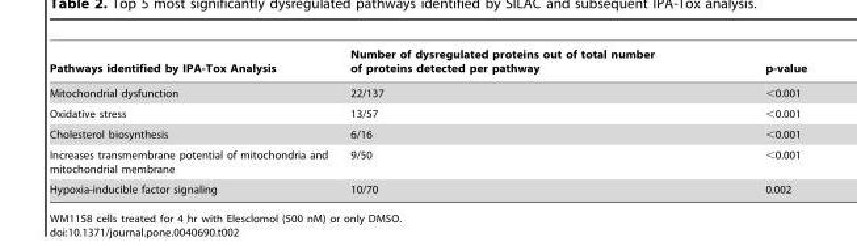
<table><thead><tr><td>Pathways identified by IPA-Tox Analysis</td><td>Number of dysregulated proteins out of total number of proteins detected per pathway</td><td>p-value</td></tr></thead><tbody><tr><td>Mitochondrial dysfunction</td><td>22/137</td><td>&lt;0.001</td></tr><tr><td>Oxidative stress</td><td>13/57</td><td>&lt;0.001</td></tr><tr><td>Cholesterol biosynthesis</td><td>6/16</td><td>&lt;0.001</td></tr><tr><td>Increases transmembrane potential of mitochondria and mitochondrial membrane</td><td>9/50</td><td>&lt;0.001</td></tr><tr><td>Hypoxia-inducible factor signaling</td><td>10/70</td><td>0.002</td></tr></tbody></table>